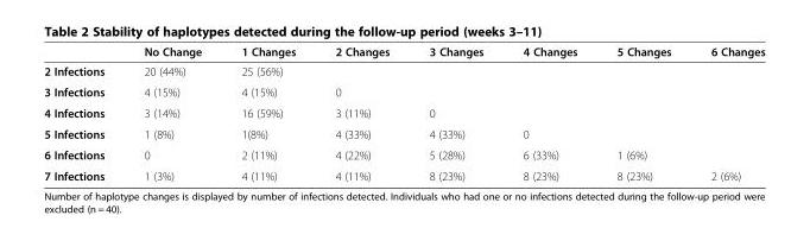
<table><thead><tr><td></td><td>No Change</td><td>1 Changes</td><td>2 Changes</td><td>3 Changes</td><td>4 Changes</td><td>5 Changes</td><td>6 Changes</td></tr></thead><tbody><tr><td>2 Infections</td><td>20 (44%)</td><td>25 (56%)</td><td></td><td></td><td></td><td></td><td></td></tr><tr><td>3 Infections</td><td>4 (15%)</td><td>4 (15%)</td><td>0</td><td></td><td></td><td></td><td></td></tr><tr><td>4 Infections</td><td>3 (14%)</td><td>16 (59%)</td><td>3 (11%)</td><td>0</td><td></td><td></td><td></td></tr><tr><td>5 Infections</td><td>1 (8%)</td><td>1(8%)</td><td>4 (33%)</td><td>4 (33%)</td><td>0</td><td></td><td></td></tr><tr><td>6 Infections</td><td>0</td><td>2 (11%)</td><td>4 (22%)</td><td>5 (28%)</td><td>6 (33%)</td><td>1 (6%)</td><td></td></tr><tr><td>7 Infections</td><td>1 (3%)</td><td>4 (11%)</td><td>4 (11%)</td><td>8 (23%)</td><td>8 (23%)</td><td>8 (23%)</td><td>2 (6%)</td></tr></tbody></table>